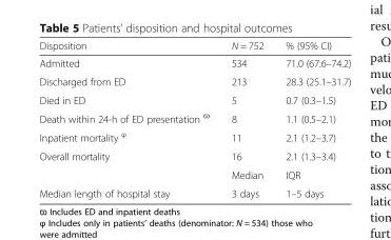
<table><thead><tr><td>Disposition</td><td>N = 752</td><td>% (95% CI)</td></tr></thead><tbody><tr><td>Admitted</td><td>534</td><td>71.0 (67.6–74.2)</td></tr><tr><td>Discharged from ED</td><td>213</td><td>28.3 (25.1–31.7)</td></tr><tr><td>Died in ED</td><td>5</td><td>0.7 (0.3–1.5)</td></tr><tr><td>Death within 24-h of ED presentation <sup>ϖ</sup></td><td>8</td><td>1.1 (0.5–2.1)</td></tr><tr><td>Inpatient mortality <sup>φ</sup></td><td>11</td><td>2.1 (1.2–3.7)</td></tr><tr><td rowspan="2">Overall mortality</td><td>16</td><td>2.1 (1.3–3.4)</td></tr><tr><td>Median</td><td>IQR</td></tr><tr><td>Median length of hospital stay</td><td>3 days</td><td>1–5 days</td></tr></tbody></table>